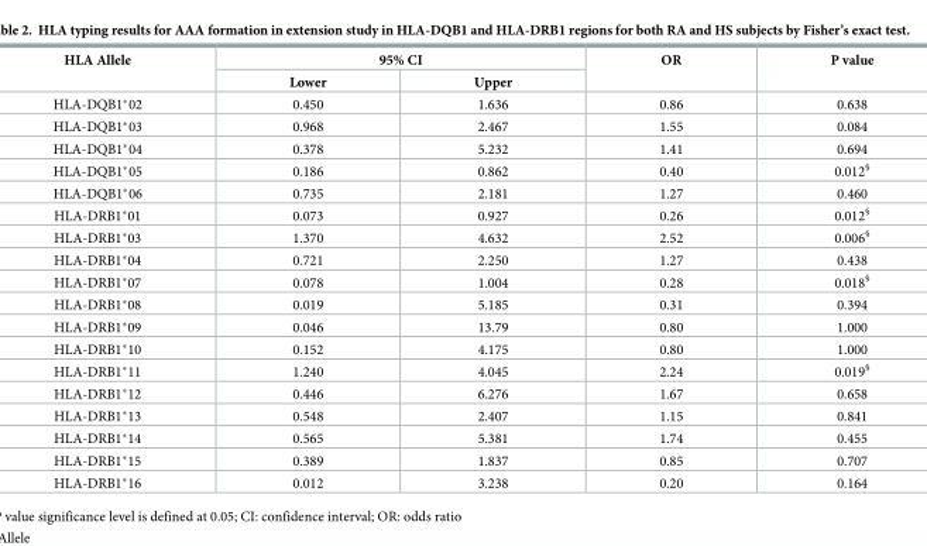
<table><thead><tr><td rowspan="2">HLA Allele</td><td colspan="2">95% CI</td><td rowspan="2">OR</td><td rowspan="2">P value</td></tr><tr><td>Lower</td><td>Upper</td></tr></thead><tbody><tr><td>HLA-DQB1*02</td><td>0.450</td><td>1.636</td><td>0.86</td><td>0.638</td></tr><tr><td>HLA-DQB1*03</td><td>0.968</td><td>2.467</td><td>1.55</td><td>0.084</td></tr><tr><td>HLA-DQB1*04</td><td>0.378</td><td>5.232</td><td>1.41</td><td>0.694</td></tr><tr><td>HLA-DQB1*05</td><td>0.186</td><td>0.862</td><td>0.40</td><td>0.012<sup>§</sup></td></tr><tr><td>HLA-DQB1*06</td><td>0.735</td><td>2.181</td><td>1.27</td><td>0.460</td></tr><tr><td>HLA-DRB1*01</td><td>0.073</td><td>0.927</td><td>0.26</td><td>0.012<sup>§</sup></td></tr><tr><td>HLA-DRB1*03</td><td>1.370</td><td>4.632</td><td>2.52</td><td>0.006<sup>§</sup></td></tr><tr><td>HLA-DRB1*04</td><td>0.721</td><td>2.250</td><td>1.27</td><td>0.438</td></tr><tr><td>HLA-DRB1*07</td><td>0.078</td><td>1.004</td><td>0.28</td><td>0.018<sup>§</sup></td></tr><tr><td>HLA-DRB1*08</td><td>0.019</td><td>5.185</td><td>0.31</td><td>0.394</td></tr><tr><td>HLA-DRB1*09</td><td>0.046</td><td>13.79</td><td>0.80</td><td>1.000</td></tr><tr><td>HLA-DRB1*10</td><td>0.152</td><td>4.175</td><td>0.80</td><td>1.000</td></tr><tr><td>HLA-DRB1*11</td><td>1.240</td><td>4.045</td><td>2.24</td><td>0.019<sup>§</sup></td></tr><tr><td>HLA-DRB1*12</td><td>0.446</td><td>6.276</td><td>1.67</td><td>0.658</td></tr><tr><td>HLA-DRB1*13</td><td>0.548</td><td>2.407</td><td>1.15</td><td>0.841</td></tr><tr><td>HLA-DRB1*14</td><td>0.565</td><td>5.381</td><td>1.74</td><td>0.455</td></tr><tr><td>HLA-DRB1*15</td><td>0.389</td><td>1.837</td><td>0.85</td><td>0.707</td></tr><tr><td>HLA-DRB1*16</td><td>0.012</td><td>3.238</td><td>0.20</td><td>0.164</td></tr></tbody></table>